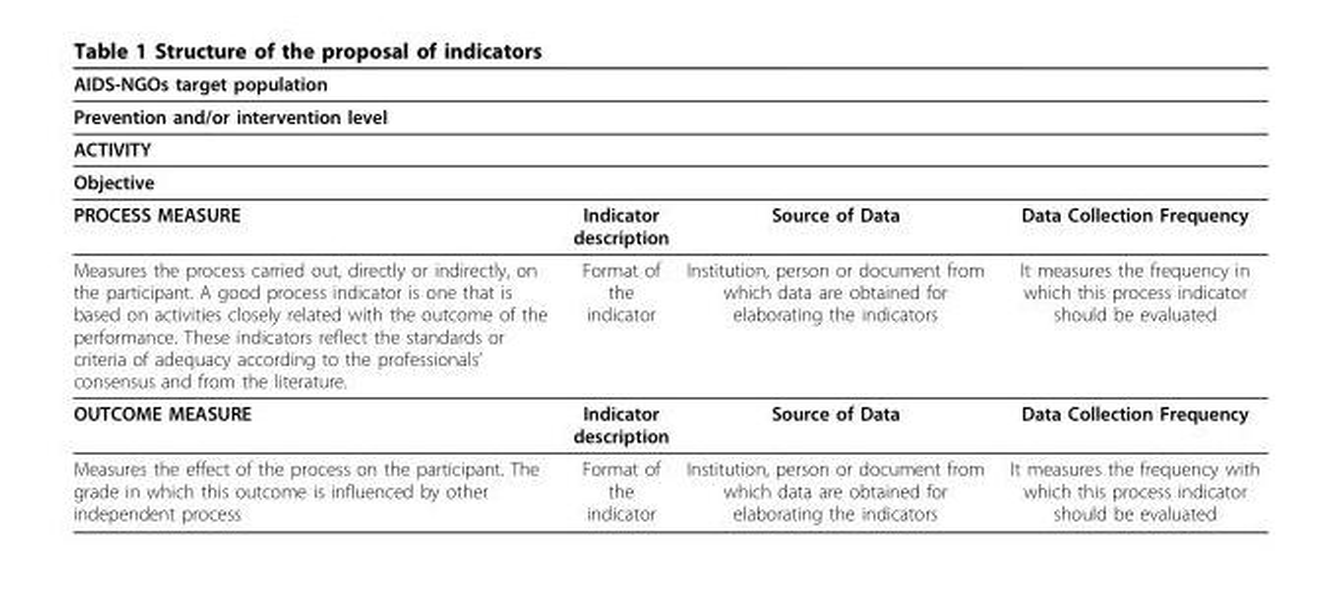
<table><thead><tr><td>AIDS-NGOs target population</td><td></td><td></td><td></td></tr></thead><tbody><tr><td colspan="4">Prevention and/or intervention level</td></tr><tr><td colspan="4">ACTIVITY</td></tr><tr><td colspan="4">Objective</td></tr><tr><td>PROCESS MEASURE</td><td>Indicator description</td><td>Source of Data</td><td>Data Collection Frequency</td></tr><tr><td>Measures the process carried out, directly or indirectly, on the participant. A good process indicator is one that is based on activities closely related with the outcome of the performance. These indicators reflect the standards or criteria of adequacy according to the professionals’ consensus and from the literature.</td><td>Format of the indicator</td><td>Institution, person or document from which data are obtained for elaborating the indicators</td><td>It measures the frequency in which this process indicator should be evaluated</td></tr><tr><td>OUTCOME MEASURE</td><td>Indicator description</td><td>Source of Data</td><td>Data Collection Frequency</td></tr><tr><td>Measures the effect of the process on the participant. The grade in which this outcome is influenced by other independent process</td><td>Format of the indicator</td><td>Institution, person or document from which data are obtained for elaborating the indicators</td><td>It measures the frequency with which this process indicator should be evaluated</td></tr></tbody></table>